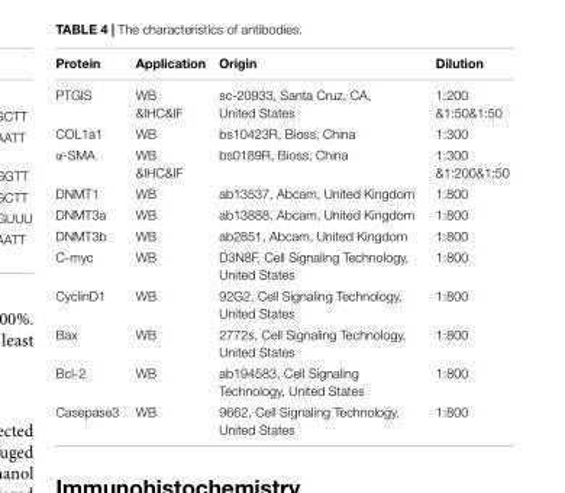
<table><thead><tr><td>Protein</td><td>Application</td><td>Origin</td><td>Dilution</td></tr></thead><tbody><tr><td>PTGIS</td><td>WB &amp;IHC&amp;IF</td><td>sc-20933, Santa Cruz, CA, United States</td><td>1:200 &amp;1:50&amp;1:50</td></tr><tr><td>COL1a1</td><td>WB</td><td>bs10423R, Bioss, China</td><td>1:300</td></tr><tr><td>α-SMA</td><td>WB &amp;IHC&amp;IF</td><td>bs0189R, Bioss, China</td><td>1:300 &amp;1:200&amp;1:50</td></tr><tr><td>DNMT1</td><td>WB</td><td>ab13537, Abcam, United Kingdom</td><td>1:800</td></tr><tr><td>DNMT3a</td><td>WB</td><td>ab13888, Abcam, United Kingdom</td><td>1:800</td></tr><tr><td>DNMT3b</td><td>WB</td><td>ab2851, Abcam, United Kingdom</td><td>1:800</td></tr><tr><td>C-myc</td><td>WB</td><td>D3N8F, Cell Signaling Technology, United States</td><td>1:800</td></tr><tr><td>CyclinD1</td><td>WB</td><td>92G2, Cell Signaling Technology, United States</td><td>1:800</td></tr><tr><td>Bax</td><td>WB</td><td>2772s, Cell Signaling Technology, United States</td><td>1:800</td></tr><tr><td>Bcl-2</td><td>WB</td><td>ab194583, Cell Signaling Technology, United States</td><td>1:800</td></tr><tr><td>Casepase3</td><td>WB</td><td>9662, Cell Signaling Technology, United States</td><td>1:800</td></tr></tbody></table>